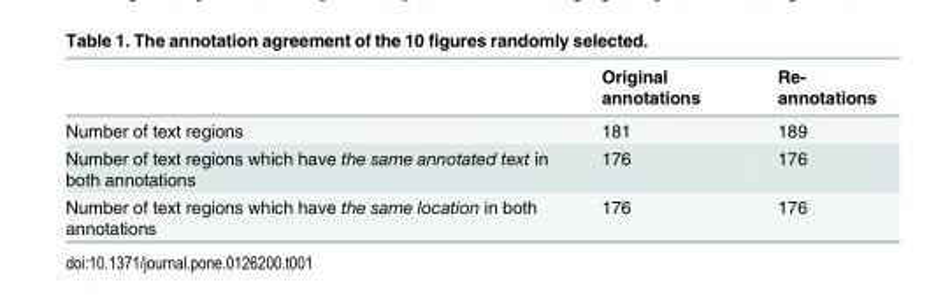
<table><thead><tr><td></td><td>Original annotations</td><td>Re- annotations</td></tr></thead><tbody><tr><td>Number of text regions</td><td>181</td><td>189</td></tr><tr><td>Number of text regions which have the same annotated text in both annotations</td><td>176</td><td>176</td></tr><tr><td>Number of text regions which have the same location in both annotations</td><td>176</td><td>176</td></tr></tbody></table>